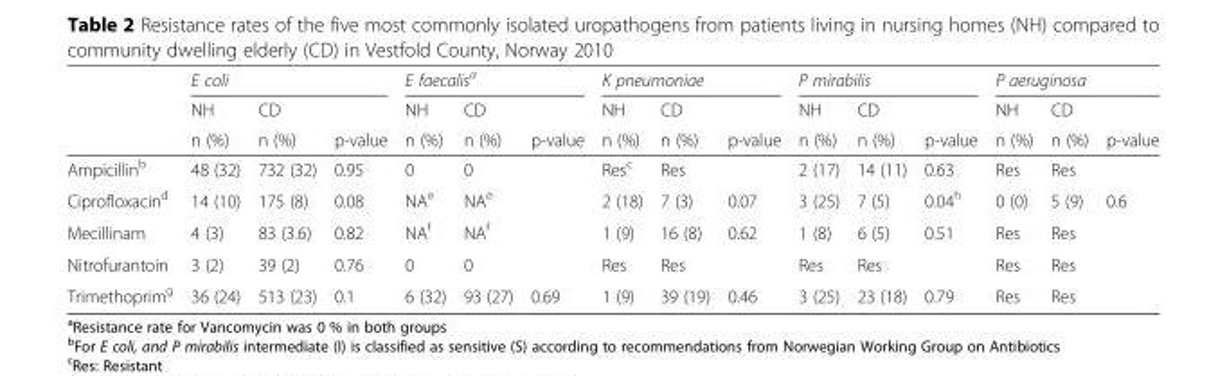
<table><thead><tr><td rowspan="3"></td><td colspan="3">E coli</td><td colspan="3">E faecalis<sup>a</sup></td><td colspan="3">K pneumoniae</td><td colspan="3">P mirabilis</td><td colspan="3">P aeruginosa</td></tr><tr><td rowspan="2">NH n (%)</td><td rowspan="2">CD n (%)</td><td rowspan="2">p-value</td><td rowspan="2">NH n (%)</td><td rowspan="2">CD n (%)</td><td rowspan="2">p-value</td><td rowspan="2">NH n (%)</td><td rowspan="2">CD n (%)</td><td rowspan="2">p-value</td><td rowspan="2">NH n (%)</td><td rowspan="2">CD n (%)</td><td rowspan="2">p-value</td><td rowspan="2">NH n (%)</td><td rowspan="2">CD n (%)</td><td rowspan="2">p-value</td></tr><tr></tr></thead><tbody><tr><td>Ampicillin<sup>b</sup></td><td>48 (32)</td><td>732 (32)</td><td>0.95</td><td>0</td><td>0</td><td></td><td>Res<sup>c</sup></td><td>Res</td><td></td><td>2 (17)</td><td>14 (11)</td><td>0.63</td><td>Res</td><td>Res</td><td></td></tr><tr><td>Ciprofloxacin<sup>d</sup></td><td>14 (10)</td><td>175 (8)</td><td>0.08</td><td>NA<sup>e</sup></td><td>NA<sup>e</sup></td><td></td><td>2 (18)</td><td>7 (3)</td><td>0.07</td><td>3 (25)</td><td>7 (5)</td><td>0.04<sup>h</sup></td><td>0 (0)</td><td>5 (9)</td><td>0.6</td></tr><tr><td>Mecillinam</td><td>4 (3)</td><td>83 (3.6)</td><td>0.82</td><td>NA<sup>f</sup></td><td>NA<sup>f</sup></td><td></td><td>1 (9)</td><td>16 (8)</td><td>0.62</td><td>1 (8)</td><td>6 (5)</td><td>0.51</td><td>Res</td><td>Res</td><td></td></tr><tr><td>Nitrofurantoin</td><td>3 (2)</td><td>39 (2)</td><td>0.76</td><td>0</td><td>0</td><td></td><td>Res</td><td>Res</td><td></td><td>Res</td><td>Res</td><td></td><td>Res</td><td>Res</td><td></td></tr><tr><td>Trimethoprim<sup>g</sup></td><td>36 (24)</td><td>513 (23)</td><td>0.1</td><td>6 (32)</td><td>93 (27)</td><td>0.69</td><td>1 (9)</td><td>39 (19)</td><td>0.46</td><td>3 (25)</td><td>23 (18)</td><td>0.79</td><td>Res</td><td>Res</td><td></td></tr></tbody></table>